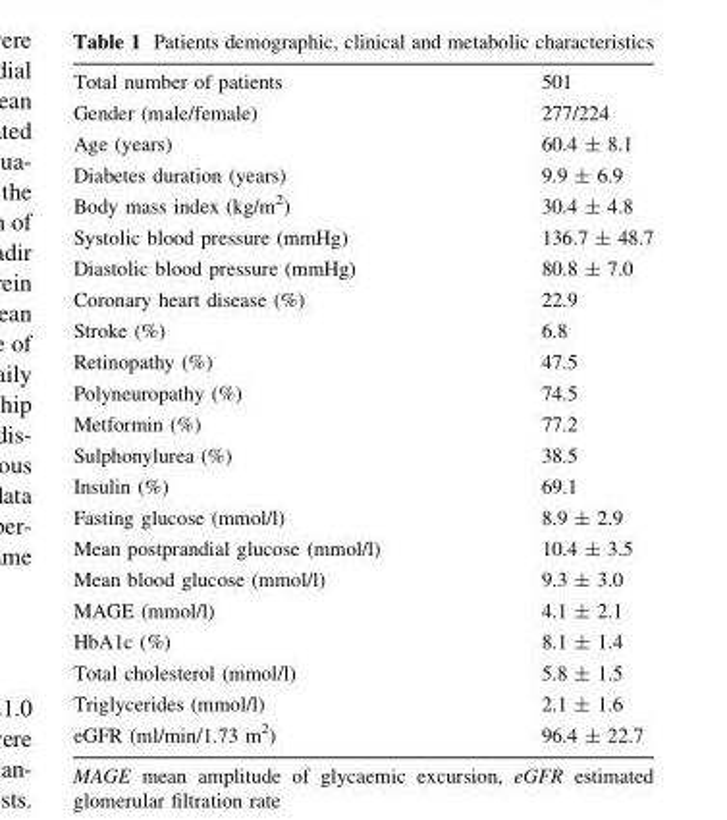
<table><tbody><tr><td>Total number of patients</td><td>501</td></tr><tr><td>Gender (male/female)</td><td>277/224</td></tr><tr><td>Age (years)</td><td>60.4 ± 8.1</td></tr><tr><td>Diabetes duration (years)</td><td>9.9 ± 6.9</td></tr><tr><td>Body mass index (kg/m<sup>2</sup>)</td><td>30.4 ± 4.8</td></tr><tr><td>Systolic blood pressure (mmHg)</td><td>136.7 ± 48.7</td></tr><tr><td>Diastolic blood pressure (mmHg)</td><td>80.8 ± 7.0</td></tr><tr><td>Coronary heart disease (%)</td><td>22.9</td></tr><tr><td>Stroke (%)</td><td>6.8</td></tr><tr><td>Retinopathy (%)</td><td>47.5</td></tr><tr><td>Polyneuropathy (%)</td><td>74.5</td></tr><tr><td>Metformin (%)</td><td>77.2</td></tr><tr><td>Sulphonylurea (%)</td><td>38.5</td></tr><tr><td>Insulin (%)</td><td>69.1</td></tr><tr><td>Fasting glucose (mmol/l)</td><td>8.9 ± 2.9</td></tr><tr><td>Mean postprandial glucose (mmol/l)</td><td>10.4 ± 3.5</td></tr><tr><td>Mean blood glucose (mmol/l)</td><td>9.3 ± 3.0</td></tr><tr><td>MAGE (mmol/l)</td><td>4.1 ± 2.1</td></tr><tr><td>HbA1c (%)</td><td>8.1 ± 1.4</td></tr><tr><td>Total cholesterol (mmol/l)</td><td>5.8 ± 1.5</td></tr><tr><td>Triglycerides (mmol/l)</td><td>2.1 ± 1.6</td></tr><tr><td>eGFR (ml/min/1.73 m<sup>2</sup>)</td><td>96.4 ± 22.7</td></tr></tbody></table>